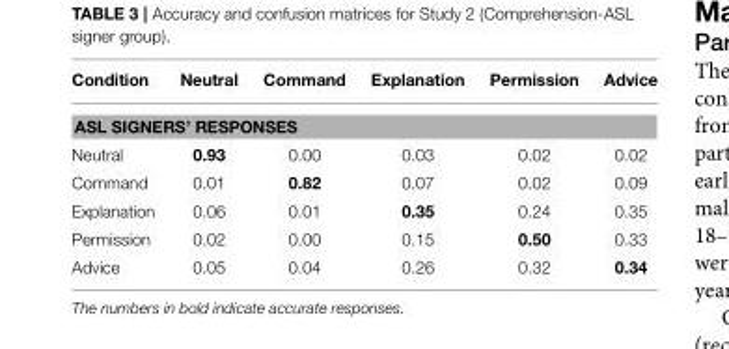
<table><thead><tr><td>Condition</td><td>Neutral</td><td>Command</td><td>Explanation</td><td>Permission</td><td>Advice</td></tr></thead><tbody><tr><td colspan="6">ASL SIGNERS’ RESPONSES</td></tr><tr><td>Neutral</td><td>0.93</td><td>0.00</td><td>0.03</td><td>0.02</td><td>0.02</td></tr><tr><td>Command</td><td>0.01</td><td>0.82</td><td>0.07</td><td>0.02</td><td>0.09</td></tr><tr><td>Explanation</td><td>0.06</td><td>0.01</td><td>0.35</td><td>0.24</td><td>0.35</td></tr><tr><td>Permission</td><td>0.02</td><td>0.00</td><td>0.15</td><td>0.50</td><td>0.33</td></tr><tr><td>Advice</td><td>0.05</td><td>0.04</td><td>0.26</td><td>0.32</td><td>0.34</td></tr></tbody></table>